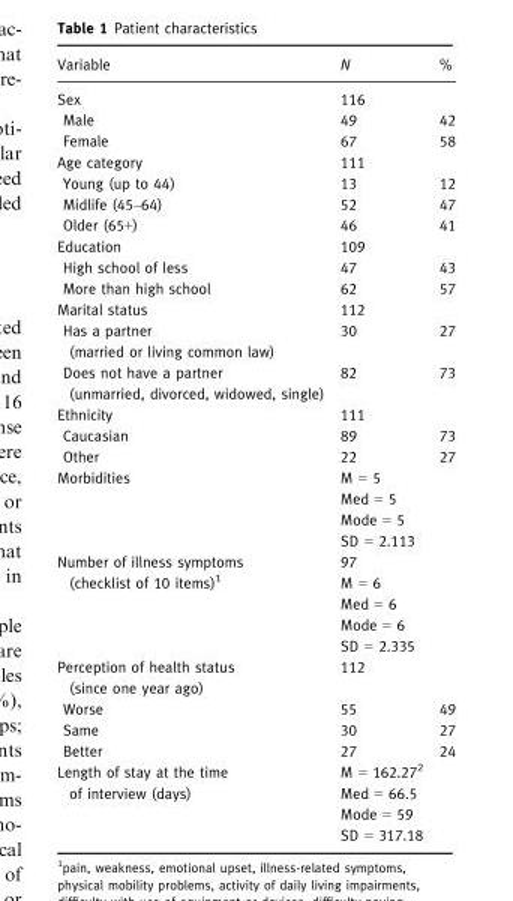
<table><thead><tr><td>Variable</td><td>N</td><td>%</td></tr></thead><tbody><tr><td>Sex</td><td>116</td><td></td></tr><tr><td>Male</td><td>49</td><td>42</td></tr><tr><td>Female</td><td>67</td><td>58</td></tr><tr><td>Age category</td><td>111</td><td></td></tr><tr><td>Young (up to 44)</td><td>13</td><td>12</td></tr><tr><td>Midlife (45–64)</td><td>52</td><td>47</td></tr><tr><td>Older (65+)</td><td>46</td><td>41</td></tr><tr><td>Education</td><td>109</td><td></td></tr><tr><td>High school of less</td><td>47</td><td>43</td></tr><tr><td>More than high school</td><td>62</td><td>57</td></tr><tr><td>Marital status</td><td>112</td><td></td></tr><tr><td>Has a partner (married or living common law)</td><td>30</td><td>27</td></tr><tr><td>Does not have a partner (unmarried, divorced, widowed, single)</td><td>82</td><td>73</td></tr><tr><td>Ethnicity</td><td>111</td><td></td></tr><tr><td>Caucasian</td><td>89</td><td>73</td></tr><tr><td>Other</td><td>22</td><td>27</td></tr><tr><td rowspan="4">Morbidities</td><td>M = 5</td><td></td></tr><tr><td>Med = 5</td><td></td></tr><tr><td>Mode = 5</td><td></td></tr><tr><td>SD = 2.113</td><td></td></tr><tr><td rowspan="5">Number of illness symptoms (checklist of 10 items)1</td><td>97</td><td></td></tr><tr><td>M = 6</td><td></td></tr><tr><td>Med = 6</td><td></td></tr><tr><td>Mode = 6</td><td></td></tr><tr><td>SD = 2.335</td><td></td></tr><tr><td>Perception of health status (since one year ago)</td><td>112</td><td></td></tr><tr><td>Worse</td><td>55</td><td>49</td></tr><tr><td>Same</td><td>30</td><td>27</td></tr><tr><td>Better</td><td>27</td><td>24</td></tr><tr><td rowspan="4">Length of stay at the time of interview (days)</td><td>M = 162.272</td><td></td></tr><tr><td>Med = 66.5</td><td></td></tr><tr><td>Mode = 59</td><td></td></tr><tr><td>SD = 317.18</td><td></td></tr></tbody></table>